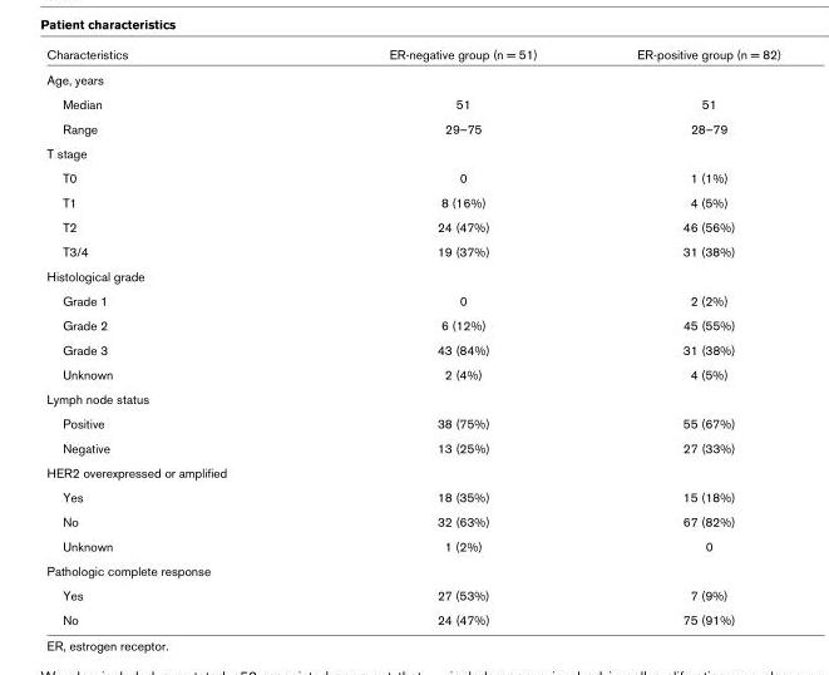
<table><thead><tr><td>Characteristics</td><td>ER-negative group (n = 51)</td><td>ER-positive group (n = 82)</td></tr></thead><tbody><tr><td colspan="3">Age, years</td></tr><tr><td>Median</td><td>51</td><td>51</td></tr><tr><td>Range</td><td>29–75</td><td>28–79</td></tr><tr><td colspan="3">T stage</td></tr><tr><td>T0</td><td>0</td><td>1 (1%)</td></tr><tr><td>T1</td><td>8 (16%)</td><td>4 (5%)</td></tr><tr><td>T2</td><td>24 (47%)</td><td>46 (56%)</td></tr><tr><td>T3/4</td><td>19 (37%)</td><td>31 (38%)</td></tr><tr><td colspan="3">Histological grade</td></tr><tr><td>Grade 1</td><td>0</td><td>2 (2%)</td></tr><tr><td>Grade 2</td><td>6 (12%)</td><td>45 (55%)</td></tr><tr><td>Grade 3</td><td>43 (84%)</td><td>31 (38%)</td></tr><tr><td>Unknown</td><td>2 (4%)</td><td>4 (5%)</td></tr><tr><td colspan="3">Lymph node status</td></tr><tr><td>Positive</td><td>38 (75%)</td><td>55 (67%)</td></tr><tr><td>Negative</td><td>13 (25%)</td><td>27 (33%)</td></tr><tr><td colspan="3">HER2 overexpressed or amplified</td></tr><tr><td>Yes</td><td>18 (35%)</td><td>15 (18%)</td></tr><tr><td>No</td><td>32 (63%)</td><td>67 (82%)</td></tr><tr><td>Unknown</td><td>1 (2%)</td><td>0</td></tr><tr><td colspan="3">Pathologic complete response</td></tr><tr><td>Yes</td><td>27 (53%)</td><td>7 (9%)</td></tr><tr><td>No</td><td>24 (47%)</td><td>75 (91%)</td></tr></tbody></table>